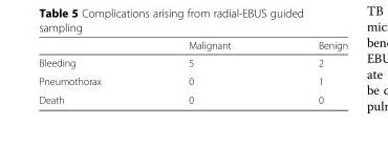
<table><thead><tr><td></td><td>Malignant</td><td>Benign</td></tr></thead><tbody><tr><td>Bleeding</td><td>5</td><td>2</td></tr><tr><td>Pneumothorax</td><td>0</td><td>1</td></tr><tr><td>Death</td><td>0</td><td>0</td></tr></tbody></table>